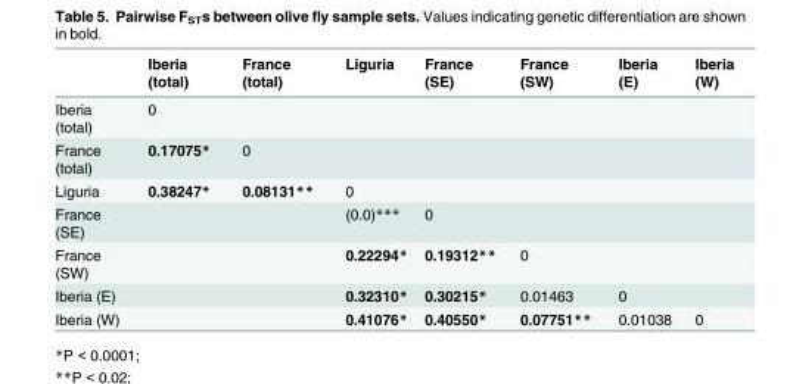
<table><thead><tr><td></td><td>Iberia (total)</td><td>France (total)</td><td>Liguria</td><td>France (SE)</td><td>France (SW)</td><td>Iberia (E)</td><td>Iberia (W)</td></tr></thead><tbody><tr><td>Iberia (total)</td><td>0</td><td></td><td></td><td></td><td></td><td></td><td></td></tr><tr><td>France (total)</td><td>0.17075*</td><td>0</td><td></td><td></td><td></td><td></td><td></td></tr><tr><td>Liguria</td><td>0.38247*</td><td>0.08131**</td><td>0</td><td></td><td></td><td></td><td></td></tr><tr><td>France (SE)</td><td></td><td></td><td>(0.0)***</td><td>0</td><td></td><td></td><td></td></tr><tr><td>France (SW)</td><td></td><td></td><td>0.22294*</td><td>0.19312**</td><td>0</td><td></td><td></td></tr><tr><td>Iberia (E)</td><td></td><td></td><td>0.32310*</td><td>0.30215*</td><td>0.01463</td><td>0</td><td></td></tr><tr><td>Iberia (W)</td><td></td><td></td><td>0.41076*</td><td>0.40550*</td><td>0.07751**</td><td>0.01038</td><td>0</td></tr></tbody></table>